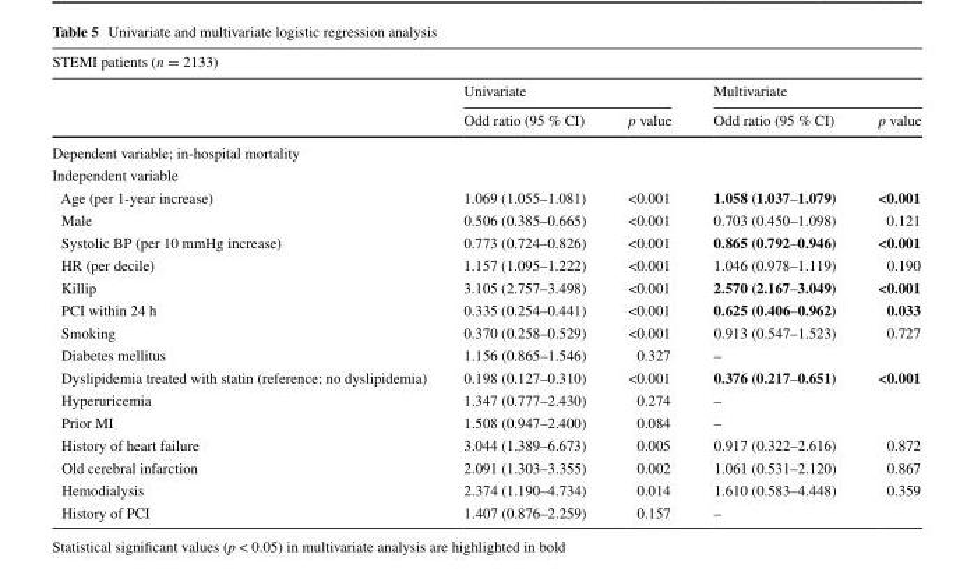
<table><thead><tr><td colspan="5">STEMI patients (n = 2133)</td></tr><tr><td rowspan="2"></td><td colspan="2">Univariate</td><td colspan="2">Multivariate</td></tr><tr><td>Odd ratio (95 % CI)</td><td>p value</td><td>Odd ratio (95 % CI)</td><td>p value</td></tr></thead><tbody><tr><td colspan="5">Dependent variable; in-hospital mortality</td></tr><tr><td colspan="5">Independent variable</td></tr><tr><td>Age (per 1-year increase)</td><td>1.069 (1.055–1.081)</td><td>&lt;0.001</td><td>1.058 (1.037–1.079)</td><td>&lt;0.001</td></tr><tr><td>Male</td><td>0.506 (0.385–0.665)</td><td>&lt;0.001</td><td>0.703 (0.450–1.098)</td><td>0.121</td></tr><tr><td>Systolic BP (per 10 mmHg increase)</td><td>0.773 (0.724–0.826)</td><td>&lt;0.001</td><td>0.865 (0.792–0.946)</td><td>&lt;0.001</td></tr><tr><td>HR (per decile)</td><td>1.157 (1.095–1.222)</td><td>&lt;0.001</td><td>1.046 (0.978–1.119)</td><td>0.190</td></tr><tr><td>Killip</td><td>3.105 (2.757–3.498)</td><td>&lt;0.001</td><td>2.570 (2.167–3.049)</td><td>&lt;0.001</td></tr><tr><td>PCI within 24 h</td><td>0.335 (0.254–0.441)</td><td>&lt;0.001</td><td>0.625 (0.406–0.962)</td><td>0.033</td></tr><tr><td>Smoking</td><td>0.370 (0.258–0.529)</td><td>&lt;0.001</td><td>0.913 (0.547–1.523)</td><td>0.727</td></tr><tr><td>Diabetes mellitus</td><td>1.156 (0.865–1.546)</td><td>0.327</td><td>–</td><td></td></tr><tr><td>Dyslipidemia treated with statin (reference; no dyslipidemia)</td><td>0.198 (0.127–0.310)</td><td>&lt;0.001</td><td>0.376 (0.217–0.651)</td><td>&lt;0.001</td></tr><tr><td>Hyperuricemia</td><td>1.347 (0.777–2.430)</td><td>0.274</td><td>–</td><td></td></tr><tr><td>Prior MI</td><td>1.508 (0.947–2.400)</td><td>0.084</td><td>–</td><td></td></tr><tr><td>History of heart failure</td><td>3.044 (1.389–6.673)</td><td>0.005</td><td>0.917 (0.322–2.616)</td><td>0.872</td></tr><tr><td>Old cerebral infarction</td><td>2.091 (1.303–3.355)</td><td>0.002</td><td>1.061 (0.531–2.120)</td><td>0.867</td></tr><tr><td>Hemodialysis</td><td>2.374 (1.190–4.734)</td><td>0.014</td><td>1.610 (0.583–4.448)</td><td>0.359</td></tr><tr><td>History of PCI</td><td>1.407 (0.876–2.259)</td><td>0.157</td><td>–</td><td></td></tr></tbody></table>